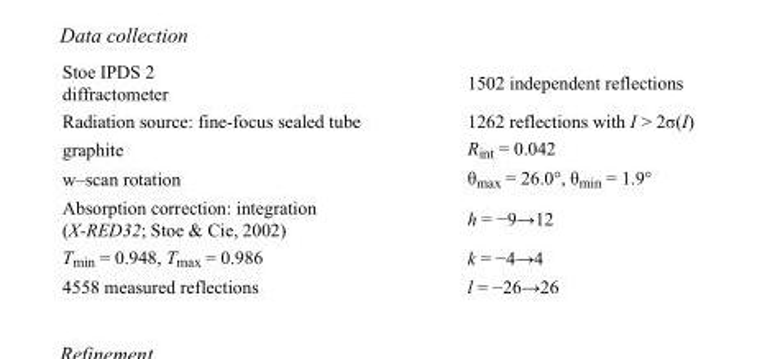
<table><tbody><tr><td>Stoe IPDS 2 diffractometer</td><td>1502 independent reflections</td></tr><tr><td>Radiation source: fine-focus sealed tube</td><td>1262 reflections with I &gt; 2σ(I)</td></tr><tr><td>graphite</td><td>R<sub>int</sub> = 0.042</td></tr><tr><td>w–scan rotation</td><td>θ<sub>max</sub> = 26.0°, θ<sub>min</sub> = 1.9°</td></tr><tr><td>Absorption correction: integration (X-RED32; Stoe &amp; Cie, 2002)</td><td>h = −9→12</td></tr><tr><td>T<sub>min</sub> = 0.948, T<sub>max</sub> = 0.986</td><td>k = −4→4</td></tr><tr><td>4558 measured reflections</td><td>l = −26→26</td></tr></tbody></table>